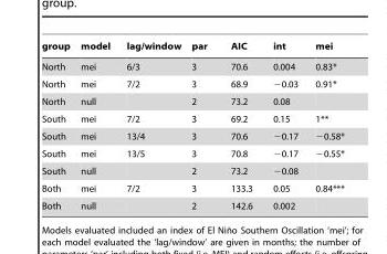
<table><thead><tr><td>group</td><td>model</td><td>lag/window</td><td>par</td><td>AIC</td><td>int</td><td>mei</td></tr></thead><tbody><tr><td>North</td><td>mei</td><td>6/3</td><td>3</td><td>70.6</td><td>0.004</td><td>0.83*</td></tr><tr><td>North</td><td>mei</td><td>7/2</td><td>3</td><td>68.9</td><td>−0.03</td><td>0.91*</td></tr><tr><td>North</td><td>null</td><td></td><td>2</td><td>73.2</td><td>0.08</td><td></td></tr><tr><td>South</td><td>mei</td><td>7/2</td><td>3</td><td>69.2</td><td>0.15</td><td>1**</td></tr><tr><td>South</td><td>mei</td><td>13/4</td><td>3</td><td>70.6</td><td>−0.17</td><td>−0.58*</td></tr><tr><td>South</td><td>mei</td><td>13/5</td><td>3</td><td>70.8</td><td>−0.17</td><td>−0.55*</td></tr><tr><td>South</td><td>null</td><td></td><td>2</td><td>73.2</td><td>−0.08</td><td></td></tr><tr><td>Both</td><td>mei</td><td>7/2</td><td>3</td><td>133.3</td><td>0.05</td><td>0.84***</td></tr><tr><td>Both</td><td>null</td><td></td><td>2</td><td>142.6</td><td>0.002</td><td></td></tr></tbody></table>